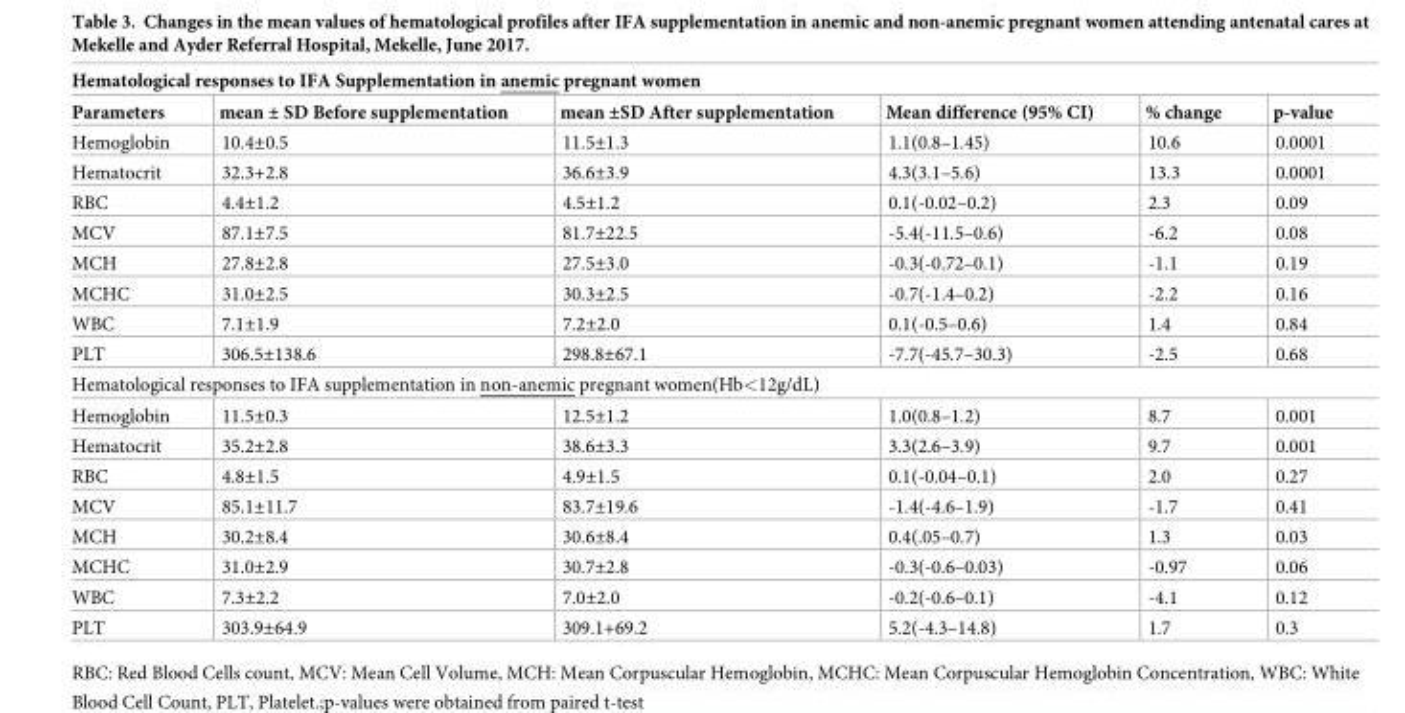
<table><thead><tr><td colspan="6">Hematological responses to IFA Supplementation in anemic pregnant women</td></tr><tr><td>Parameters</td><td>mean ± SD Before supplementation</td><td>mean ±SD After supplementation</td><td>Mean difference (95% CI)</td><td>% change</td><td>p-value</td></tr></thead><tbody><tr><td>Hemoglobin</td><td>10.4±0.5</td><td>11.5±1.3</td><td>1.1(0.8–1.45)</td><td>10.6</td><td>0.0001</td></tr><tr><td>Hematocrit</td><td>32.3+2.8</td><td>36.6±3.9</td><td>4.3(3.1–5.6)</td><td>13.3</td><td>0.0001</td></tr><tr><td>RBC</td><td>4.4±1.2</td><td>4.5±1.2</td><td>0.1(-0.02–0.2)</td><td>2.3</td><td>0.09</td></tr><tr><td>MCV</td><td>87.1±7.5</td><td>81.7±22.5</td><td>-5.4(-11.5–0.6)</td><td>-6.2</td><td>0.08</td></tr><tr><td>MCH</td><td>27.8±2.8</td><td>27.5±3.0</td><td>-0.3(-0.72–0.1)</td><td>-1.1</td><td>0.19</td></tr><tr><td>MCHC</td><td>31.0±2.5</td><td>30.3±2.5</td><td>-0.7(-1.4–0.2)</td><td>-2.2</td><td>0.16</td></tr><tr><td>WBC</td><td>7.1±1.9</td><td>7.2±2.0</td><td>0.1(-0.5–0.6)</td><td>1.4</td><td>0.84</td></tr><tr><td>PLT</td><td>306.5±138.6</td><td>298.8±67.1</td><td>-7.7(-45.7–30.3)</td><td>-2.5</td><td>0.68</td></tr><tr><td colspan="6">Hematological responses to IFA supplementation in non-anemic pregnant women(Hb&lt;12g/dL)</td></tr><tr><td>Hemoglobin</td><td>11.5±0.3</td><td>12.5±1.2</td><td>1.0(0.8–1.2)</td><td>8.7</td><td>0.001</td></tr><tr><td>Hematocrit</td><td>35.2±2.8</td><td>38.6±3.3</td><td>3.3(2.6–3.9)</td><td>9.7</td><td>0.001</td></tr><tr><td>RBC</td><td>4.8±1.5</td><td>4.9±1.5</td><td>0.1(-0.04–0.1)</td><td>2.0</td><td>0.27</td></tr><tr><td>MCV</td><td>85.1±11.7</td><td>83.7±19.6</td><td>-1.4(-4.6–1.9)</td><td>-1.7</td><td>0.41</td></tr><tr><td>MCH</td><td>30.2±8.4</td><td>30.6±8.4</td><td>0.4(.05–0.7)</td><td>1.3</td><td>0.03</td></tr><tr><td>MCHC</td><td>31.0±2.9</td><td>30.7±2.8</td><td>-0.3(-0.6–0.03)</td><td>-0.97</td><td>0.06</td></tr><tr><td>WBC</td><td>7.3±2.2</td><td>7.0±2.0</td><td>-0.2(-0.6–0.1)</td><td>-4.1</td><td>0.12</td></tr><tr><td>PLT</td><td>303.9±64.9</td><td>309.1+69.2</td><td>5.2(-4.3–14.8)</td><td>1.7</td><td>0.3</td></tr></tbody></table>